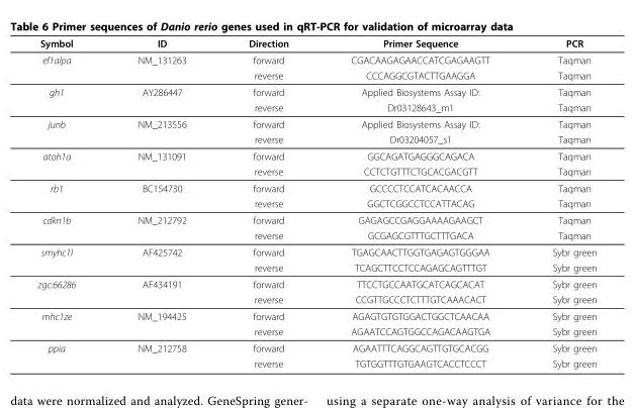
<table><thead><tr><td>Symbol</td><td>ID</td><td>Direction</td><td>Primer Sequence</td><td>PCR</td></tr></thead><tbody><tr><td rowspan="2">ef1alpa</td><td>NM_131263</td><td>forward</td><td>CGACAAGAGAACCATCGAGAAGTT</td><td>Taqman</td></tr><tr><td></td><td>reverse</td><td>CCCAGGCGTACTTGAAGGA</td><td>Taqman</td></tr><tr><td rowspan="2">gh1</td><td>AY286447</td><td>forward</td><td>Applied Biosystems Assay ID:</td><td>Taqman</td></tr><tr><td></td><td>reverse</td><td>Dr03128643_m1</td><td>Taqman</td></tr><tr><td rowspan="2">junb</td><td>NM_213556</td><td>forward</td><td>Applied Biosystems Assay ID:</td><td>Taqman</td></tr><tr><td></td><td>reverse</td><td>Dr03204057_s1</td><td>Taqman</td></tr><tr><td rowspan="2">atoh1a</td><td>NM_131091</td><td>forward</td><td>GGCAGATGAGGGCAGACA</td><td>Taqman</td></tr><tr><td></td><td>reverse</td><td>CCTCTGTTTCTGCACGACGTT</td><td>Taqman</td></tr><tr><td rowspan="2">rb1</td><td>BC154730</td><td>forward</td><td>GCCCCTCCATCACAACCA</td><td>Taqman</td></tr><tr><td></td><td>reverse</td><td>GGCTCGGCCTCCATTACAG</td><td>Taqman</td></tr><tr><td rowspan="2">cdkn1b</td><td>NM_212792</td><td>forward</td><td>GAGAGCCGAGGAAAAGAAGCT</td><td>Taqman</td></tr><tr><td></td><td>reverse</td><td>GCGAGCGTTTGCTTTGACA</td><td>Taqman</td></tr><tr><td rowspan="2">smyhc1l</td><td>AF425742</td><td>forward</td><td>TGAGCAACTTGGTGAGAGTGGGAA</td><td>Sybr green</td></tr><tr><td></td><td>reverse</td><td>TCAGCTTCCTCCAGAGCAGTTTGT</td><td>Sybr green</td></tr><tr><td rowspan="2">zgc:66286</td><td>AF434191</td><td>forward</td><td>TTCCTGCCAATGCATCAGCACAT</td><td>Sybr green</td></tr><tr><td></td><td>reverse</td><td>CCGTTGCCCTCTTTGTCAAACACT</td><td>Sybr green</td></tr><tr><td rowspan="2">mhc1ze</td><td>NM_194425</td><td>forward</td><td>AGAGTGTGTGGACTGGCTCAACAA</td><td>Sybr green</td></tr><tr><td></td><td>reverse</td><td>AGAATCCAGTGGCCAGACAAGTGA</td><td>Sybr green</td></tr><tr><td rowspan="2">ppia</td><td>NM_212758</td><td>forward</td><td>AGAATTTCAGGCAGTTGTGCACGG</td><td>Sybr green</td></tr><tr><td></td><td>reverse</td><td>TGTGGTTTGTGAAGTCACCTCCCT</td><td>Sybr green</td></tr></tbody></table>